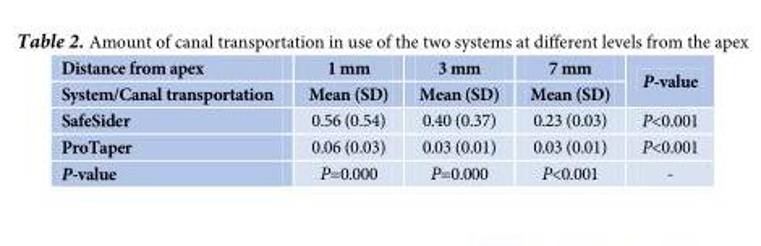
<table><thead><tr><td rowspan="2">Distance from apex System/Canal transportation</td><td rowspan="2">1 mm Mean (SD)</td><td rowspan="2">3 mm Mean (SD)</td><td rowspan="2">7 mm Mean (SD)</td><td rowspan="2">P-value</td></tr><tr></tr></thead><tbody><tr><td>SafeSider</td><td>0.56 (0.54)</td><td>0.40 (0.37)</td><td>0.23 (0.03)</td><td>P&lt;0.001</td></tr><tr><td>ProTaper</td><td>0.06 (0.03)</td><td>0.03 (0.01)</td><td>0.03 (0.01)</td><td>P&lt;0.001</td></tr><tr><td>P-value</td><td>P=0.000</td><td>P=0.000</td><td>P&lt;0.001</td><td>-</td></tr></tbody></table>